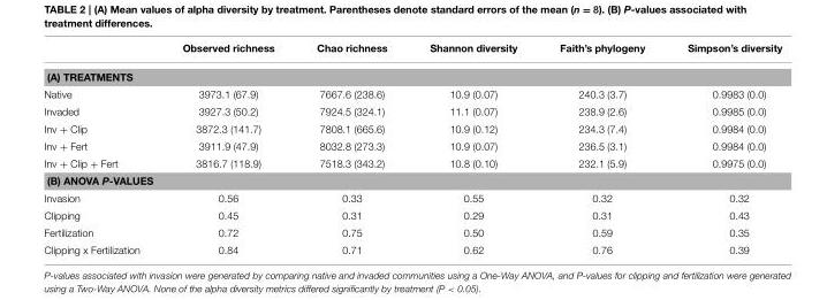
<table><thead><tr><td></td><td>Observed richness</td><td>Chao richness</td><td>Shannon diversity</td><td>Faith’s phylogeny</td><td>Simpson’s diversity</td></tr></thead><tbody><tr><td colspan="6">(A) TREATMENTS</td></tr><tr><td>Native</td><td>3973.1 (67.9)</td><td>7667.6 (238.6)</td><td>10.9 (0.07)</td><td>240.3 (3.7)</td><td>0.9983 (0.0)</td></tr><tr><td>Invaded</td><td>3927.3 (50.2)</td><td>7924.5 (324.1)</td><td>11.1 (0.07)</td><td>238.9 (2.6)</td><td>0.9985 (0.0)</td></tr><tr><td>Inv + Clip</td><td>3872.3 (141.7)</td><td>7808.1 (665.6)</td><td>10.9 (0.12)</td><td>234.3 (7.4)</td><td>0.9984 (0.0)</td></tr><tr><td>Inv + Fert</td><td>3911.9 (47.9)</td><td>8032.8 (273.3)</td><td>10.9 (0.07)</td><td>236.5 (3.1)</td><td>0.9984 (0.0)</td></tr><tr><td>Inv + Clip + Fert</td><td>3816.7 (118.9)</td><td>7518.3 (343.2)</td><td>10.8 (0.10)</td><td>232.1 (5.9)</td><td>0.9975 (0.0)</td></tr><tr><td colspan="6">(B) ANOVA P-VALUES</td></tr><tr><td>Invasion</td><td>0.56</td><td>0.33</td><td>0.55</td><td>0.32</td><td>0.32</td></tr><tr><td>Clipping</td><td>0.45</td><td>0.31</td><td>0.29</td><td>0.31</td><td>0.43</td></tr><tr><td>Fertilization</td><td>0.72</td><td>0.75</td><td>0.50</td><td>0.59</td><td>0.35</td></tr><tr><td>Clipping x Fertilization</td><td>0.84</td><td>0.71</td><td>0.62</td><td>0.76</td><td>0.39</td></tr></tbody></table>